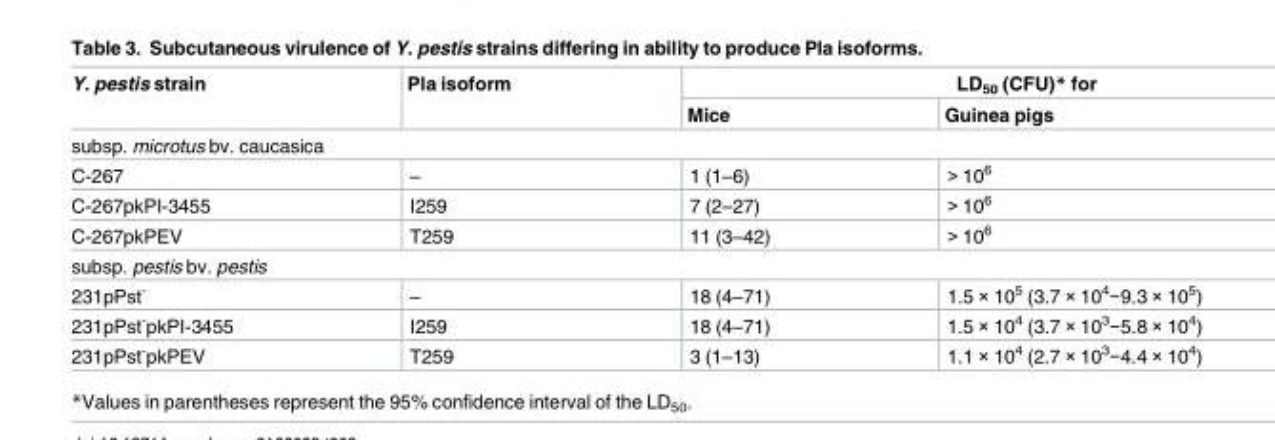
<table><thead><tr><td rowspan="2">Y. pestis strain</td><td rowspan="2">Pla isoform</td><td colspan="2">LD<sub>50</sub> (CFU)* for</td></tr><tr><td>Mice</td><td>Guinea pigs</td></tr></thead><tbody><tr><td colspan="4">subsp. microtus bv. caucasica</td></tr><tr><td>C-267</td><td>–</td><td>1 (1–6)</td><td>&gt; 10<sup>6</sup></td></tr><tr><td>C-267pkPI-3455</td><td>I259</td><td>7 (2–27)</td><td>&gt; 10<sup>6</sup></td></tr><tr><td>C-267pkPEV</td><td>T259</td><td>11 (3–42)</td><td>&gt; 10<sup>6</sup></td></tr><tr><td colspan="4">subsp. pestis bv. pestis</td></tr><tr><td>231pPst<sup>-</sup></td><td>–</td><td>18 (4–71)</td><td>1.5 × 10<sup>5</sup> (3.7 × 10<sup>4</sup>−9.3 × 10<sup>5</sup>)</td></tr><tr><td>231pPst<sup>-</sup>pkPI-3455</td><td>I259</td><td>18 (4–71)</td><td>1.5 × 10<sup>4</sup> (3.7 × 10<sup>3</sup>−5.8 × 10<sup>4</sup>)</td></tr><tr><td>231pPst<sup>-</sup>pkPEV</td><td>T259</td><td>3 (1–13)</td><td>1.1 × 10<sup>4</sup> (2.7 × 10<sup>3</sup>−4.4 × 10<sup>4</sup>)</td></tr></tbody></table>